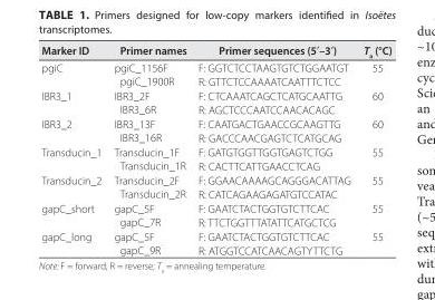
<table><thead><tr><td>Marker ID</td><td>Primer names</td><td>Primer sequences (5′–3′)</td><td>T<sub>a</sub> (°C)</td></tr></thead><tbody><tr><td rowspan="2">pgiC</td><td rowspan="2">pgiC_1156F pgiC_1900R</td><td>F: GGTCTCCTAAGTGTCTGGAATGT</td><td rowspan="2">55</td></tr><tr><td>R: GTTCTCCAAAATCAATTTCTCC</td></tr><tr><td rowspan="2">IBR3_1</td><td rowspan="2">IBR3_2F IBR3_6R</td><td>F: CTCAAATCAGCTCATGCAATTG</td><td rowspan="2">60</td></tr><tr><td>R: AGCTCCCAATCCAACACAGC</td></tr><tr><td rowspan="2">IBR3_2</td><td rowspan="2">IBR3_13F IBR3_16R</td><td>F: CAATGACTGAACCGCAAGTTG</td><td rowspan="2">60</td></tr><tr><td>R: GACCCAACGAGTCTCATGCAG</td></tr><tr><td rowspan="2">Transducin_1</td><td rowspan="2">Transducin_1F Transducin_1R</td><td>F: GATGTGGTTGGTGAGTCTGG</td><td rowspan="2">55</td></tr><tr><td>R: CACTTCATTGAACCTCAG</td></tr><tr><td rowspan="2">Transducin_2</td><td rowspan="2">Transducin_2F Transducin_2R</td><td>F: GGAACAAAAGCAGGGACATTAG</td><td rowspan="2">55</td></tr><tr><td>R: CATCAGAAGAGATGTCCATAC</td></tr><tr><td rowspan="2">gapC_short</td><td rowspan="2">gapC_5F gapC_7R</td><td>F: GAATCTACTGGTGTCTTCAC</td><td rowspan="2">55</td></tr><tr><td>R: TTCTGGTTTATATTCATGCTCG</td></tr><tr><td rowspan="2">gapC_long</td><td rowspan="2">gapC_5F gapC_9R</td><td>F: GAATCTACTGGTGTCTTCAC</td><td rowspan="2">55</td></tr><tr><td>R: ATGGTCCATCAACAGTYTTCTG</td></tr></tbody></table>